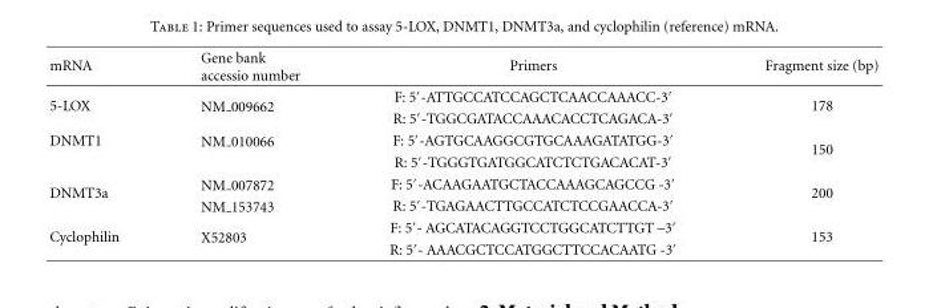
<table><thead><tr><td>mRNA</td><td>Gene bank accessio number</td><td>Primers</td><td>Fragment size (bp)</td></tr></thead><tbody><tr><td rowspan="2">5-LOX</td><td rowspan="2">NM 009662</td><td>F: 5′-ATTGCCATCCAGCTCAACCAAACC-3′</td><td rowspan="2">178</td></tr><tr><td>R: 5′-TGGCGATACCAAACACCTCAGACA-3′</td></tr><tr><td rowspan="2">DNMT1</td><td>NM 010066</td><td>F: 5′-AGTGCAAGGCGTGCAAAGATATGG-3′</td><td rowspan="2">150</td></tr><tr><td></td><td>R: 5′-TGGGTGATGGCATCTCTGACACAT-3′</td></tr><tr><td rowspan="2">DNMT3a</td><td>NM 007872</td><td>F: 5′-ACAAGAATGCTACCAAAGCAGCCG -3′</td><td rowspan="2">200</td></tr><tr><td>NM 153743</td><td>R: 5′-TGAGAACTTGCCATCTCCGAACCA-3′</td></tr><tr><td rowspan="2">Cyclophilin</td><td rowspan="2">X52803</td><td>F: 5′- AGCATACAGGTCCTGGCATCTTGT –3′</td><td rowspan="2">153</td></tr><tr><td>R: 5′- AAACGCTCCATGGCTTCCACAATG -3′</td></tr></tbody></table>